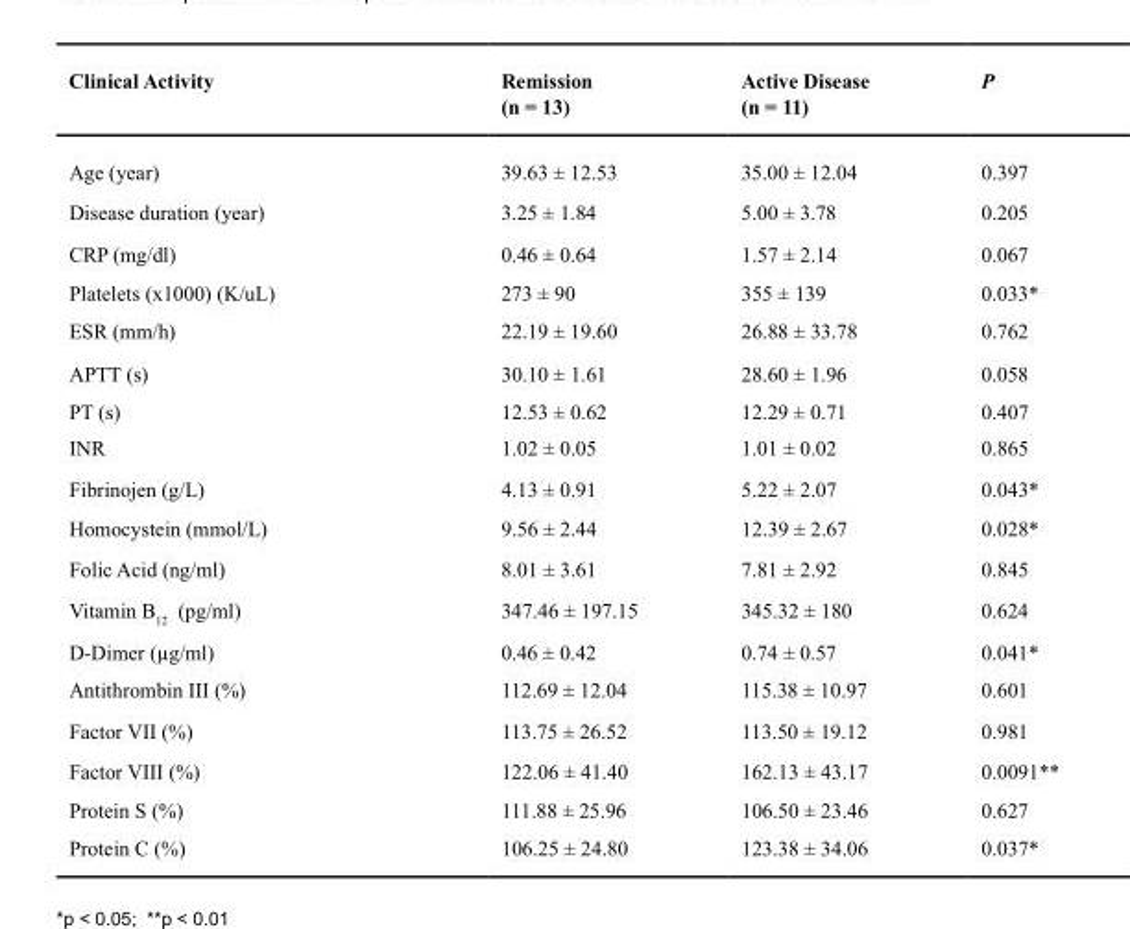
<table><thead><tr><td>Clinical Activity</td><td>Remission (n = 13)</td><td>Active Disease (n = 11)</td><td>P</td></tr></thead><tbody><tr><td>Age (year)</td><td>39.63 ± 12.53</td><td>35.00 ± 12.04</td><td>0.397</td></tr><tr><td>Disease duration (year)</td><td>3.25 ± 1.84</td><td>5.00 ± 3.78</td><td>0.205</td></tr><tr><td>CRP (mg/dl)</td><td>0.46 ± 0.64</td><td>1.57 ± 2.14</td><td>0.067</td></tr><tr><td>Platelets (x1000) (K/uL)</td><td>273 ± 90</td><td>355 ± 139</td><td>0.033*</td></tr><tr><td>ESR (mm/h)</td><td>22.19 ± 19.60</td><td>26.88 ± 33.78</td><td>0.762</td></tr><tr><td>APTT (s)</td><td>30.10 ± 1.61</td><td>28.60 ± 1.96</td><td>0.058</td></tr><tr><td>PT (s)</td><td>12.53 ± 0.62</td><td>12.29 ± 0.71</td><td>0.407</td></tr><tr><td>INR</td><td>1.02 ± 0.05</td><td>1.01 ± 0.02</td><td>0.865</td></tr><tr><td>Fibrinojen (g/L)</td><td>4.13 ± 0.91</td><td>5.22 ± 2.07</td><td>0.043*</td></tr><tr><td>Homocystein (mmol/L)</td><td>9.56 ± 2.44</td><td>12.39 ± 2.67</td><td>0.028*</td></tr><tr><td>Folic Acid (ng/ml)</td><td>8.01 ± 3.61</td><td>7.81 ± 2.92</td><td>0.845</td></tr><tr><td>Vitamin B<sub>12</sub> (pg/ml)</td><td>347.46 ± 197.15</td><td>345.32 ± 180</td><td>0.624</td></tr><tr><td>D-Dimer (µg/ml)</td><td>0.46 ± 0.42</td><td>0.74 ± 0.57</td><td>0.041*</td></tr><tr><td>Antithrombin III (%)</td><td>112.69 ± 12.04</td><td>115.38 ± 10.97</td><td>0.601</td></tr><tr><td>Factor VII (%)</td><td>113.75 ± 26.52</td><td>113.50 ± 19.12</td><td>0.981</td></tr><tr><td>Factor VIII (%)</td><td>122.06 ± 41.40</td><td>162.13 ± 43.17</td><td>0.0091**</td></tr><tr><td>Protein S (%)</td><td>111.88 ± 25.96</td><td>106.50 ± 23.46</td><td>0.627</td></tr><tr><td>Protein C (%)</td><td>106.25 ± 24.80</td><td>123.38 ± 34.06</td><td>0.037*</td></tr></tbody></table>